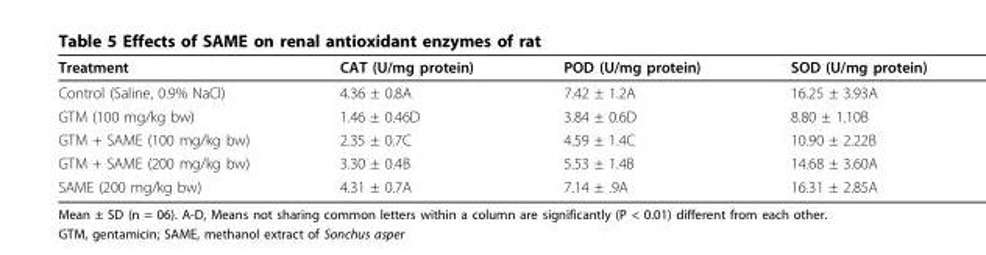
<table><thead><tr><td>Treatment</td><td>CAT (U/mg protein)</td><td>POD (U/mg protein)</td><td>SOD (U/mg protein)</td></tr></thead><tbody><tr><td>Control (Saline, 0.9% NaCl)</td><td>4.36 ± 0.8A</td><td>7.42 ± 1.2A</td><td>16.25 ± 3.93A</td></tr><tr><td>GTM (100 mg/kg bw)</td><td>1.46 ± 0.46D</td><td>3.84 ± 0.6D</td><td>8.80 ± 1.10B</td></tr><tr><td>GTM + SAME (100 mg/kg bw)</td><td>2.35 ± 0.7C</td><td>4.59 ± 1.4C</td><td>10.90 ± 2.22B</td></tr><tr><td>GTM + SAME (200 mg/kg bw)</td><td>3.30 ± 0.4B</td><td>5.53 ± 1.4B</td><td>14.68 ± 3.60A</td></tr><tr><td>SAME (200 mg/kg bw)</td><td>4.31 ± 0.7A</td><td>7.14 ± .9A</td><td>16.31 ± 2.85A</td></tr></tbody></table>